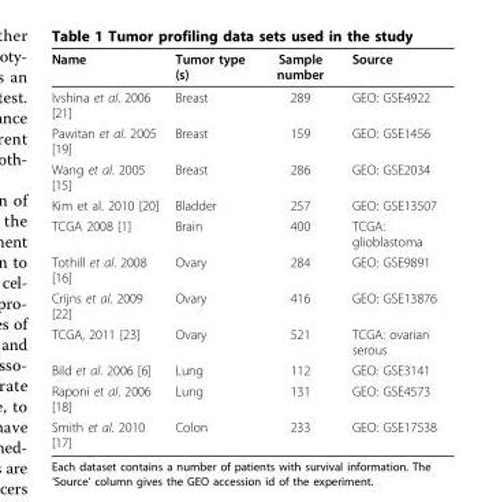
<table><thead><tr><td>Name</td><td>Tumor type (s)</td><td>Sample number</td><td>Source</td></tr></thead><tbody><tr><td>Ivshina et al. 2006 [21]</td><td>Breast</td><td>289</td><td>GEO: GSE4922</td></tr><tr><td>Pawitan et al. 2005 [19]</td><td>Breast</td><td>159</td><td>GEO: GSE1456</td></tr><tr><td>Wang et al. 2005 [15]</td><td>Breast</td><td>286</td><td>GEO: GSE2034</td></tr><tr><td>Kim et al. 2010 [20]</td><td>Bladder</td><td>257</td><td>GEO: GSE13507</td></tr><tr><td>TCGA 2008 [1]</td><td>Brain</td><td>400</td><td>TCGA: glioblastoma</td></tr><tr><td>Tothill et al. 2008 [16]</td><td>Ovary</td><td>284</td><td>GEO: GSE9891</td></tr><tr><td>Crijns et al. 2009 [22]</td><td>Ovary</td><td>416</td><td>GEO: GSE13876</td></tr><tr><td>TCGA, 2011 [23]</td><td>Ovary</td><td>521</td><td>TCGA: ovarian serous</td></tr><tr><td>Bild et al. 2006 [6]</td><td>Lung</td><td>112</td><td>GEO: GSE3141</td></tr><tr><td>Raponi et al. 2006 [18]</td><td>Lung</td><td>131</td><td>GEO: GSE4573</td></tr><tr><td>Smith et al. 2010 [17]</td><td>Colon</td><td>233</td><td>GEO: GSE17538</td></tr></tbody></table>